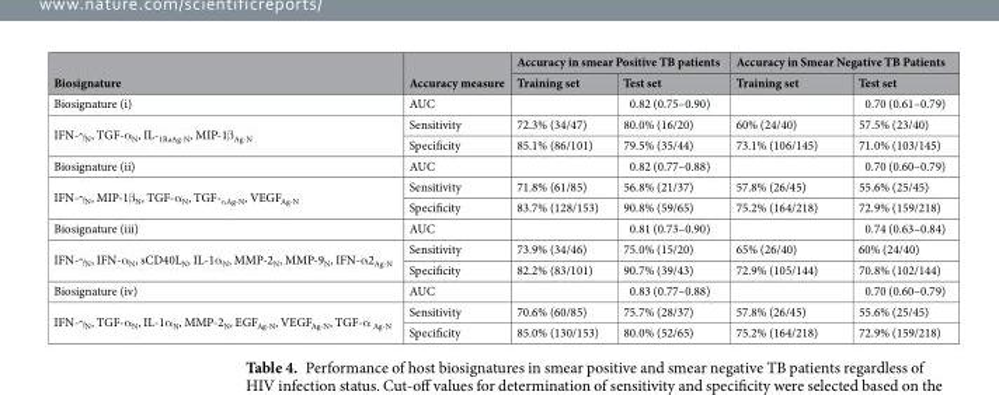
<table><thead><tr><td rowspan="2">Biosignature</td><td rowspan="2">Accuracy measure</td><td colspan="2">Accuracy in smear Positive TB patients</td><td colspan="2">Accuracy in Smear Negative TB Patients</td></tr><tr><td>Training set</td><td>Test set</td><td>Training set</td><td>Test set</td></tr></thead><tbody><tr><td>Biosignature (i)</td><td>AUC</td><td></td><td>0.82 (0.75–0.90)</td><td></td><td>0.70 (0.61–0.79)</td></tr><tr><td rowspan="2">IFN-γ<sub>N</sub>, TGF-α<sub>N</sub>, IL-<sub>1RaAg-N</sub>, MIP-1β<sub>Ag-N</sub></td><td>Sensitivity</td><td>72.3% (34/47)</td><td>80.0% (16/20)</td><td>60% (24/40)</td><td>57.5% (23/40)</td></tr><tr><td>Specificity</td><td>85.1% (86/101)</td><td>79.5% (35/44)</td><td>73.1% (106/145)</td><td>71.0% (103/145)</td></tr><tr><td>Biosignature (ii)</td><td>AUC</td><td></td><td>0.82 (0.77–0.88)</td><td></td><td>0.70 (0.60–0.79)</td></tr><tr><td rowspan="2">IFN-γ<sub>N</sub>, MIP-1β<sub>N</sub>, TGF-α<sub>N</sub>, TGF-<sub>αAg-N</sub>, VEGF<sub>Ag-N</sub></td><td>Sensitivity</td><td>71.8% (61/85)</td><td>56.8% (21/37)</td><td>57.8% (26/45)</td><td>55.6% (25/45)</td></tr><tr><td>Specificity</td><td>83.7% (128/153)</td><td>90.8% (59/65)</td><td>75.2% (164/218)</td><td>72.9% (159/218)</td></tr><tr><td>Biosignature (iii)</td><td>AUC</td><td></td><td>0.81 (0.73–0.90)</td><td></td><td>0.74 (0.63–0.84)</td></tr><tr><td rowspan="2">IFN-γ<sub>N</sub>, IFN-α<sub>N</sub>, sCD40L<sub>N</sub>, IL-1α<sub>N</sub>, MMP-2<sub>N</sub>, MMP-9<sub>N</sub>, IFN-α2<sub>Ag-N</sub></td><td>Sensitivity</td><td>73.9% (34/46)</td><td>75.0% (15/20)</td><td>65% (26/40)</td><td>60% (24/40)</td></tr><tr><td>Specificity</td><td>82.2% (83/101)</td><td>90.7% (39/43)</td><td>72.9% (105/144)</td><td>70.8% (102/144)</td></tr><tr><td>Biosignature (iv)</td><td>AUC</td><td></td><td>0.83 (0.77–0.88)</td><td></td><td>0.70 (0.60–0.79)</td></tr><tr><td rowspan="2">IFN-γ<sub>N</sub>, TGF-α<sub>N</sub>, IL-1α<sub>N</sub>, MMP-2<sub>N</sub>, EGF<sub>Ag-N</sub>, VEGF<sub>Ag-N</sub>, TGF-α <sub>Ag-N</sub></td><td>Sensitivity</td><td>70.6% (60/85)</td><td>75.7% (28/37)</td><td>57.8% (26/45)</td><td>55.6% (25/45)</td></tr><tr><td>Specificity</td><td>85.0% (130/153)</td><td>80.0% (52/65)</td><td>75.2% (164/218)</td><td>72.9% (159/218)</td></tr></tbody></table>